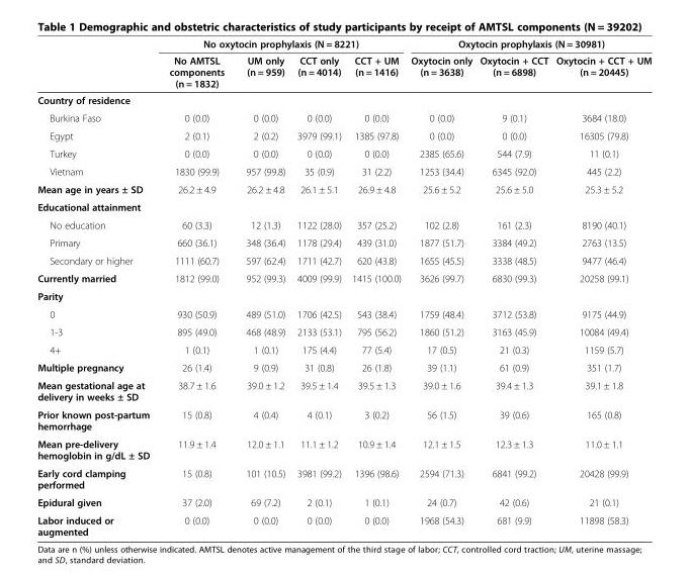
<table><thead><tr><td rowspan="2"></td><td colspan="4">No oxytocin prophylaxis (N = 8221)</td><td colspan="3">Oxytocin prophylaxis (N = 30981)</td></tr><tr><td>No AMTSL components (n = 1832)</td><td>UM only (n = 959)</td><td>CCT only (n = 4014)</td><td>CCT + UM (n = 1416)</td><td>Oxytocin only (n = 3638)</td><td>Oxytocin + CCT (n = 6898)</td><td>Oxytocin + CCT + UM (n = 20445)</td></tr></thead><tbody><tr><td colspan="8">Country of residence</td></tr><tr><td>Burkina Faso</td><td>0 (0.0)</td><td>0 (0.0)</td><td>0 (0.0)</td><td>0 (0.0)</td><td>0 (0.0)</td><td>9 (0.1)</td><td>3684 (18.0)</td></tr><tr><td>Egypt</td><td>2 (0.1)</td><td>2 (0.2)</td><td>3979 (99.1)</td><td>1385 (97.8)</td><td>0 (0.0)</td><td>0 (0.0)</td><td>16305 (79.8)</td></tr><tr><td>Turkey</td><td>0 (0.0)</td><td>0 (0.0)</td><td>0 (0.0)</td><td>0 (0.0)</td><td>2385 (65.6)</td><td>544 (7.9)</td><td>11 (0.1)</td></tr><tr><td>Vietnam</td><td>1830 (99.9)</td><td>957 (99.8)</td><td>35 (0.9)</td><td>31 (2.2)</td><td>1253 (34.4)</td><td>6345 (92.0)</td><td>445 (2.2)</td></tr><tr><td>Mean age in years ± SD</td><td>26.2 ± 4.9</td><td>26.2 ± 4.8</td><td>26.1 ± 5.1</td><td>26.9 ± 4.8</td><td>25.6 ± 5.2</td><td>25.6 ± 5.0</td><td>25.3 ± 5.2</td></tr><tr><td colspan="8">Educational attainment</td></tr><tr><td>No education</td><td>60 (3.3)</td><td>12 (1.3)</td><td>1122 (28.0)</td><td>357 (25.2)</td><td>102 (2.8)</td><td>161 (2.3)</td><td>8190 (40.1)</td></tr><tr><td>Primary</td><td>660 (36.1)</td><td>348 (36.4)</td><td>1178 (29.4)</td><td>439 (31.0)</td><td>1877 (51.7)</td><td>3384 (49.2)</td><td>2763 (13.5)</td></tr><tr><td>Secondary or higher</td><td>1111 (60.7)</td><td>597 (62.4)</td><td>1711 (42.7)</td><td>620 (43.8)</td><td>1655 (45.5)</td><td>3338 (48.5)</td><td>9477 (46.4)</td></tr><tr><td>Currently married</td><td>1812 (99.0)</td><td>952 (99.3)</td><td>4009 (99.9)</td><td>1415 (100.0)</td><td>3626 (99.7)</td><td>6830 (99.3)</td><td>20258 (99.1)</td></tr><tr><td colspan="8">Parity</td></tr><tr><td>0</td><td>930 (50.9)</td><td>489 (51.0)</td><td>1706 (42.5)</td><td>543 (38.4)</td><td>1759 (48.4)</td><td>3712 (53.8)</td><td>9175 (44.9)</td></tr><tr><td>1-3</td><td>895 (49.0)</td><td>468 (48.9)</td><td>2133 (53.1)</td><td>795 (56.2)</td><td>1860 (51.2)</td><td>3163 (45.9)</td><td>10084 (49.4)</td></tr><tr><td>4+</td><td>1 (0.1)</td><td>1 (0.1)</td><td>175 (4.4)</td><td>77 (5.4)</td><td>17 (0.5)</td><td>21 (0.3)</td><td>1159 (5.7)</td></tr><tr><td>Multiple pregnancy</td><td>26 (1.4)</td><td>9 (0.9)</td><td>31 (0.8)</td><td>26 (1.8)</td><td>39 (1.1)</td><td>61 (0.9)</td><td>351 (1.7)</td></tr><tr><td>Mean gestational age at delivery in weeks ± SD</td><td>38.7 ± 1.6</td><td>39.0 ± 1.2</td><td>39.5 ± 1.4</td><td>39.5 ± 1.3</td><td>39.0 ± 1.6</td><td>39.4 ± 1.3</td><td>39.1 ± 1.8</td></tr><tr><td>Prior known post-partum hemorrhage</td><td>15 (0.8)</td><td>4 (0.4)</td><td>4 (0.1)</td><td>3 (0.2)</td><td>56 (1.5)</td><td>39 (0.6)</td><td>165 (0.8)</td></tr><tr><td>Mean pre-delivery hemoglobin in g/dL ± SD</td><td>11.9 ± 1.4</td><td>12.0 ± 1.1</td><td>11.1 ± 1.2</td><td>10.9 ± 1.4</td><td>12.1 ± 1.5</td><td>12.3 ± 1.3</td><td>11.0 ± 1.1</td></tr><tr><td>Early cord clamping performed</td><td>15 (0.8)</td><td>101 (10.5)</td><td>3981 (99.2)</td><td>1396 (98.6)</td><td>2594 (71.3)</td><td>6841 (99.2)</td><td>20428 (99.9)</td></tr><tr><td>Epidural given</td><td>37 (2.0)</td><td>69 (7.2)</td><td>2 (0.1)</td><td>1 (0.1)</td><td>24 (0.7)</td><td>42 (0.6)</td><td>21 (0.1)</td></tr><tr><td>Labor induced or augmented</td><td>0 (0.0)</td><td>0 (0.0)</td><td>0 (0.0)</td><td>0 (0.0)</td><td>1968 (54.3)</td><td>681 (9.9)</td><td>11898 (58.3)</td></tr></tbody></table>